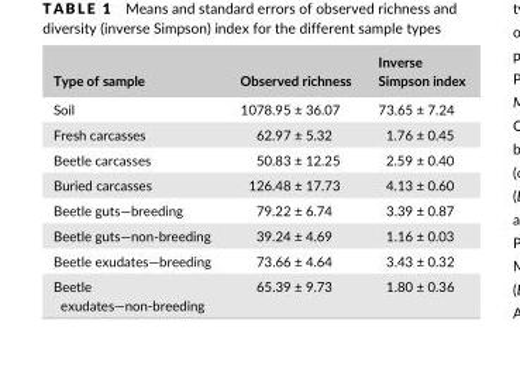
<table><thead><tr><td>Type of sample</td><td>Observed richness</td><td>Inverse Simpson index</td></tr></thead><tbody><tr><td>Soil</td><td>1078.95 ± 36.07</td><td>73.65 ± 7.24</td></tr><tr><td>Fresh carcasses</td><td>62.97 ± 5.32</td><td>1.76 ± 0.45</td></tr><tr><td>Beetle carcasses</td><td>50.83 ± 12.25</td><td>2.59 ± 0.40</td></tr><tr><td>Buried carcasses</td><td>126.48 ± 17.73</td><td>4.13 ± 0.60</td></tr><tr><td>Beetle guts—breeding</td><td>79.22 ± 6.74</td><td>3.39 ± 0.87</td></tr><tr><td>Beetle guts—non- breeding</td><td>39.24 ± 4.69</td><td>1.16 ± 0.03</td></tr><tr><td>Beetle exudates—breeding</td><td>73.66 ± 4.64</td><td>3.43 ± 0.32</td></tr><tr><td>Beetle exudates—non- breeding</td><td>65.39 ± 9.73</td><td>1.80 ± 0.36</td></tr></tbody></table>